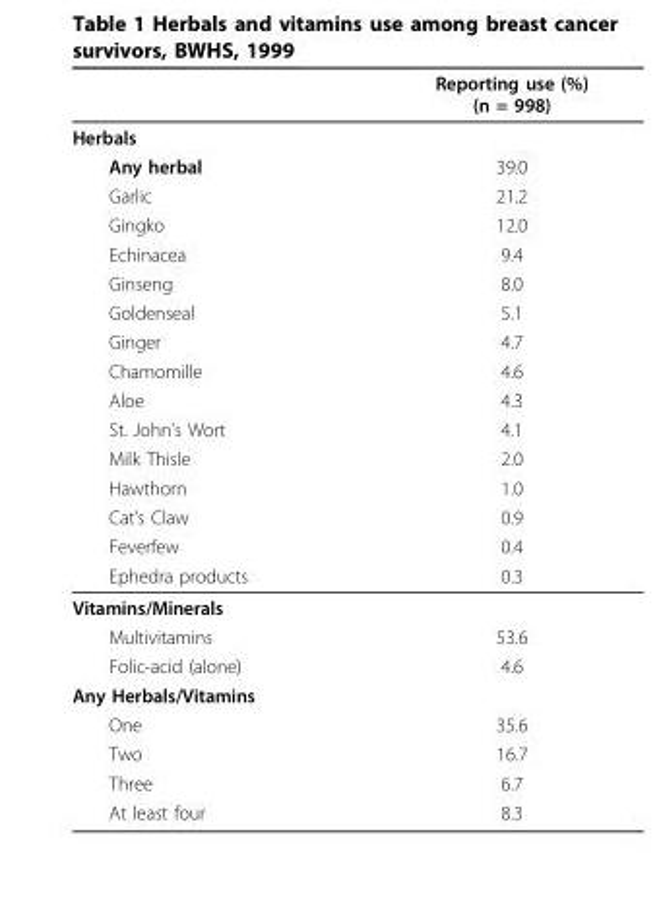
<table><thead><tr><td></td><td>Reporting use (%) (n = 998)</td></tr></thead><tbody><tr><td colspan="2">Herbals</td></tr><tr><td>Any herbal</td><td>39.0</td></tr><tr><td>Garlic</td><td>21.2</td></tr><tr><td>Gingko</td><td>12.0</td></tr><tr><td>Echinacea</td><td>9.4</td></tr><tr><td>Ginseng</td><td>8.0</td></tr><tr><td>Goldenseal</td><td>5.1</td></tr><tr><td>Ginger</td><td>4.7</td></tr><tr><td>Chamomille</td><td>4.6</td></tr><tr><td>Aloe</td><td>4.3</td></tr><tr><td>St. John’s Wort</td><td>4.1</td></tr><tr><td>Milk Thisle</td><td>2.0</td></tr><tr><td>Hawthorn</td><td>1.0</td></tr><tr><td>Cat’s Claw</td><td>0.9</td></tr><tr><td>Feverfew</td><td>0.4</td></tr><tr><td>Ephedra products</td><td>0.3</td></tr><tr><td colspan="2">Vitamins/Minerals</td></tr><tr><td>Multivitamins</td><td>53.6</td></tr><tr><td>Folic-acid (alone)</td><td>4.6</td></tr><tr><td colspan="2">Any Herbals/Vitamins</td></tr><tr><td>One</td><td>35.6</td></tr><tr><td>Two</td><td>16.7</td></tr><tr><td>Three</td><td>6.7</td></tr><tr><td>At least four</td><td>8.3</td></tr></tbody></table>